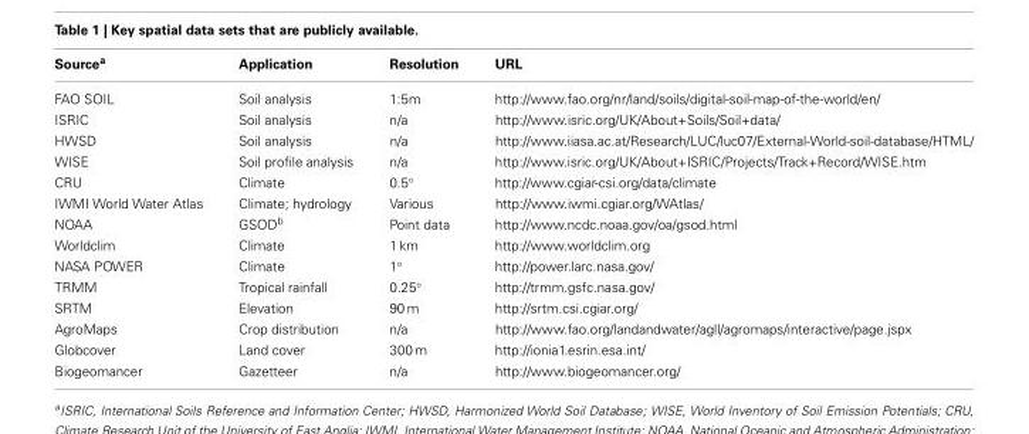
<table><thead><tr><td>Source<sup>a</sup></td><td>Application</td><td>Resolution</td><td>URL</td></tr></thead><tbody><tr><td>FAO SOIL</td><td>Soil analysis</td><td>1:5m</td><td>http://www.fao.org/nr/land/soils/digital-soil-map-of-the-world/en/</td></tr><tr><td>ISRIC</td><td>Soil analysis</td><td>n/a</td><td>http://www.isric.org/UK/About+Soils/Soil+data/</td></tr><tr><td>HWSD</td><td>Soil analysis</td><td>n/a</td><td>http://www.iiasa.ac.at/Research/LUC/luc07/External-World-soil-database/HTML/</td></tr><tr><td>WISE</td><td>Soil profile analysis</td><td>n/a</td><td>http://www.isric.org/UK/About+ISRIC/Projects/Track+Record/WISE.htm</td></tr><tr><td>CRU</td><td>Climate</td><td>0.5◦</td><td>http://www.cgiar-csi.org/data/climate</td></tr><tr><td>IWMI World Water Atlas</td><td>Climate; hydrology</td><td>Various</td><td>http://www.iwmi.cgiar.org/WAtlas/</td></tr><tr><td>NOAA</td><td>GSOD<sup>b</sup></td><td>Point data</td><td>http://www.ncdc.noaa.gov/oa/gsod.html</td></tr><tr><td>Worldclim</td><td>Climate</td><td>1 km</td><td>http://www.worldclim.org</td></tr><tr><td>NASA POWER</td><td>Climate</td><td>1◦</td><td>http://power.larc.nasa.gov/</td></tr><tr><td>TRMM</td><td>Tropical rainfall</td><td>0.25◦</td><td>http://trmm.gsfc.nasa.gov/</td></tr><tr><td>SRTM</td><td>Elevation</td><td>90 m</td><td>http://srtm.csi.cgiar.org/</td></tr><tr><td>AgroMaps</td><td>Crop distribution</td><td>n/a</td><td>http://www.fao.org/landandwater/agll/agromaps/interactive/page.jspx</td></tr><tr><td>Globcover</td><td>Land cover</td><td>300 m</td><td>http://ionia1.esrin.esa.int/</td></tr><tr><td>Biogeomancer</td><td>Gazetteer</td><td>n/a</td><td>http://www.biogeomancer.org/</td></tr></tbody></table>